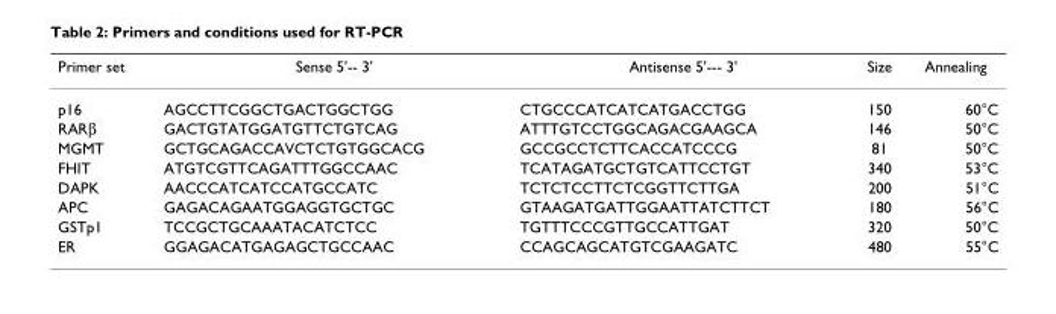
<table><thead><tr><td>Primer set</td><td>Sense 5&#x27;-- 3&#x27;</td><td>Antisense 5&#x27;--- 3&#x27;</td><td>Size</td><td>Annealing</td></tr></thead><tbody><tr><td>p16</td><td>AGCCTTCGGCTGACTGGCTGG</td><td>CTGCCCATCATCATGACCTGG</td><td>150</td><td>60°C</td></tr><tr><td>RARβ</td><td>GACTGTATGGATGTTCTGTCAG</td><td>ATTTGTCCTGGCAGACGAAGCA</td><td>146</td><td>50°C</td></tr><tr><td>MGMT</td><td>GCTGCAGACCAVCTCTGTGGCACG</td><td>GCCGCCTCTTCACCATCCCG</td><td>81</td><td>50°C</td></tr><tr><td>FHIT</td><td>ATGTCGTTCAGATTTGGCCAAC</td><td>TCATAGATGCTGTCATTCCTGT</td><td>340</td><td>53°C</td></tr><tr><td>DAPK</td><td>AACCCATCATCCATGCCATC</td><td>TCTCTCCTTCTCGGTTCTTGA</td><td>200</td><td>51°C</td></tr><tr><td>APC</td><td>GAGACAGAATGGAGGTGCTGC</td><td>GTAAGATGATTGGAATTATCTTCT</td><td>180</td><td>56°C</td></tr><tr><td>GSTp1</td><td>TCCGCTGCAAATACATCTCC</td><td>TGTTTCCCGTTGCCATTGAT</td><td>320</td><td>50°C</td></tr><tr><td>ER</td><td>GGAGACATGAGAGCTGCCAAC</td><td>CCAGCAGCATGTCGAAGATC</td><td>480</td><td>55°C</td></tr></tbody></table>